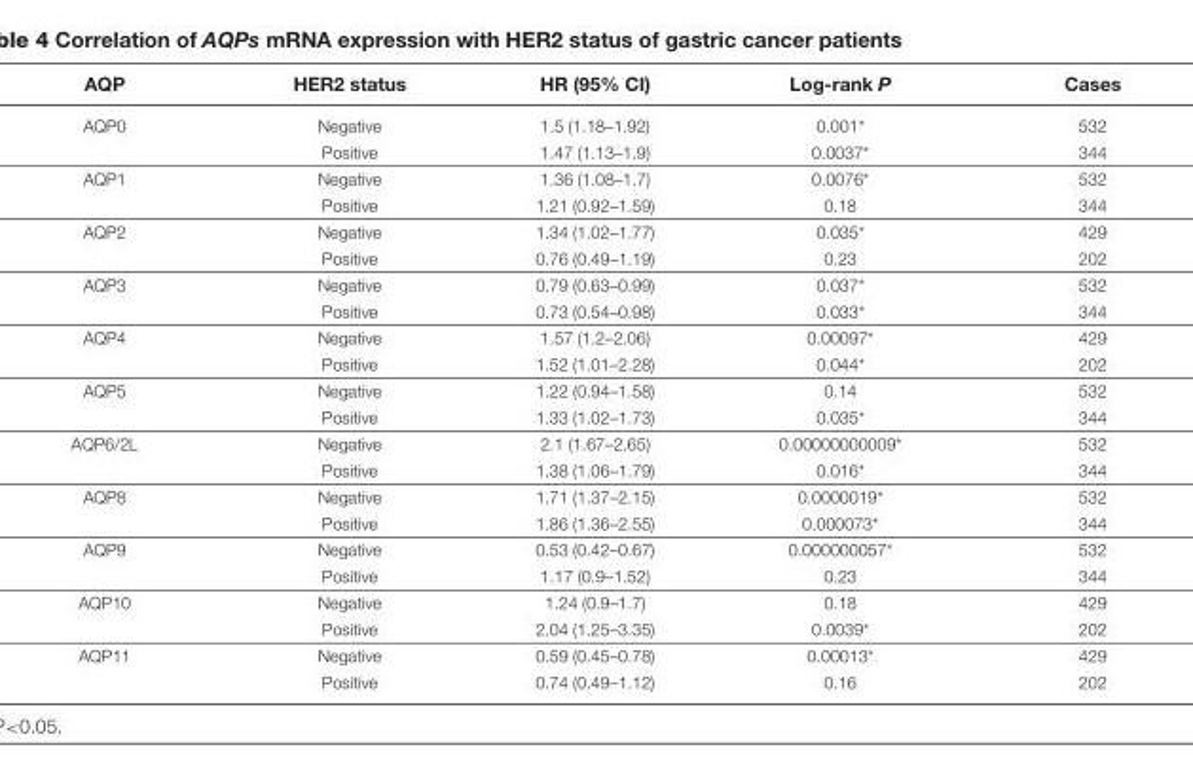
<table><thead><tr><td>AQP</td><td>HER2 status</td><td>HR (95% CI)</td><td>Log-rank P</td><td>Cases</td></tr></thead><tbody><tr><td rowspan="2">AQP0</td><td>Negative</td><td>1.5 (1.18–1.92)</td><td>0.001*</td><td>532</td></tr><tr><td>Positive</td><td>1.47 (1.13–1.9)</td><td>0.0037*</td><td>344</td></tr><tr><td rowspan="2">AQP1</td><td>Negative</td><td>1.36 (1.08–1.7)</td><td>0.0076*</td><td>532</td></tr><tr><td>Positive</td><td>1.21 (0.92–1.59)</td><td>0.18</td><td>344</td></tr><tr><td rowspan="2">AQP2</td><td>Negative</td><td>1.34 (1.02–1.77)</td><td>0.035*</td><td>429</td></tr><tr><td>Positive</td><td>0.76 (0.49–1.19)</td><td>0.23</td><td>202</td></tr><tr><td rowspan="2">AQP3</td><td>Negative</td><td>0.79 (0.63–0.99)</td><td>0.037*</td><td>532</td></tr><tr><td>Positive</td><td>0.73 (0.54–0.98)</td><td>0.033*</td><td>344</td></tr><tr><td rowspan="2">AQP4</td><td>Negative</td><td>1.57 (1.2–2.06)</td><td>0.00097*</td><td>429</td></tr><tr><td>Positive</td><td>1.52 (1.01–2.28)</td><td>0.044*</td><td>202</td></tr><tr><td rowspan="2">AQP5</td><td>Negative</td><td>1.22 (0.94–1.58)</td><td>0.14</td><td>532</td></tr><tr><td>Positive</td><td>1.33 (1.02–1.73)</td><td>0.035*</td><td>344</td></tr><tr><td rowspan="2">AQP6/2L</td><td>Negative</td><td>2.1 (1.67–2.65)</td><td>0.00000000009*</td><td>532</td></tr><tr><td>Positive</td><td>1.38 (1.06–1.79)</td><td>0.016*</td><td>344</td></tr><tr><td rowspan="2">AQP8</td><td>Negative</td><td>1.71 (1.37–2.15)</td><td>0.0000019*</td><td>532</td></tr><tr><td>Positive</td><td>1.86 (1.36–2.55)</td><td>0.000073*</td><td>344</td></tr><tr><td rowspan="2">AQP9</td><td>Negative</td><td>0.53 (0.42–0.67)</td><td>0.000000057*</td><td>532</td></tr><tr><td>Positive</td><td>1.17 (0.9–1.52)</td><td>0.23</td><td>344</td></tr><tr><td rowspan="2">AQP10</td><td>Negative</td><td>1.24 (0.9–1.7)</td><td>0.18</td><td>429</td></tr><tr><td>Positive</td><td>2.04 (1.25–3.35)</td><td>0.0039*</td><td>202</td></tr><tr><td rowspan="2">AQP11</td><td>Negative</td><td>0.59 (0.45–0.78)</td><td>0.00013*</td><td>429</td></tr><tr><td>Positive</td><td>0.74 (0.49–1.12)</td><td>0.16</td><td>202</td></tr></tbody></table>